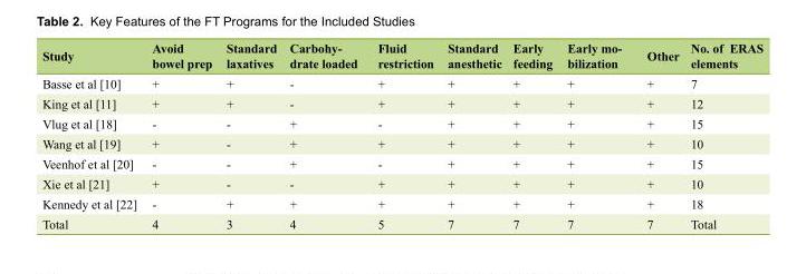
<table><thead><tr><td>Study</td><td>Avoid bowel prep</td><td>Standard laxatives</td><td>Carbohy- drate loaded</td><td>Fluid restriction</td><td>Standard anesthetic</td><td>Early feeding</td><td>Early mo- bilization</td><td>Other</td><td>No. of ERAS elements</td></tr></thead><tbody><tr><td>Basse et al [10]</td><td>+</td><td>+</td><td>-</td><td>+</td><td>+</td><td>+</td><td>+</td><td>+</td><td>7</td></tr><tr><td>King et al [11]</td><td>+</td><td>+</td><td>-</td><td>+</td><td>+</td><td>+</td><td>+</td><td>+</td><td>12</td></tr><tr><td>Vlug et al [18]</td><td>-</td><td>-</td><td>+</td><td>-</td><td>+</td><td>+</td><td>+</td><td>+</td><td>15</td></tr><tr><td>Wang et al [19]</td><td>+</td><td>-</td><td>+</td><td>+</td><td>+</td><td>+</td><td>+</td><td>+</td><td>10</td></tr><tr><td>Veenhof et al [20]</td><td>-</td><td>-</td><td>+</td><td>-</td><td>+</td><td>+</td><td>+</td><td>+</td><td>15</td></tr><tr><td>Xie et al [21]</td><td>+</td><td>-</td><td>-</td><td>+</td><td>+</td><td>+</td><td>+</td><td>+</td><td>10</td></tr><tr><td>Kennedy et al [22]</td><td>-</td><td>+</td><td>+</td><td>+</td><td>+</td><td>+</td><td>+</td><td>+</td><td>18</td></tr><tr><td>Total</td><td>4</td><td>3</td><td>4</td><td>5</td><td>7</td><td>7</td><td>7</td><td>7</td><td>Total</td></tr></tbody></table>